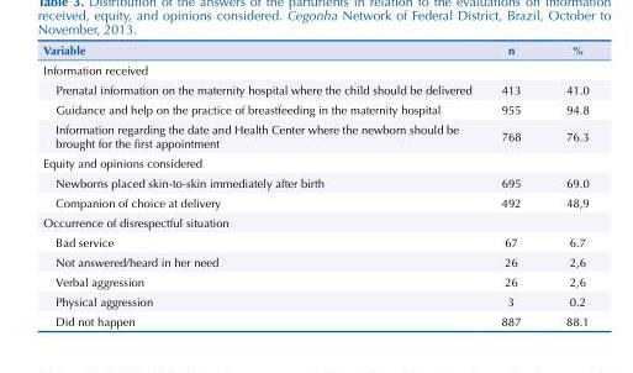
<table><thead><tr><td>Variable</td><td>n</td><td>%</td></tr></thead><tbody><tr><td colspan="3">Information received</td></tr><tr><td>Prenatal information on the maternity hospital where the child should be delivered</td><td>413</td><td>41.0</td></tr><tr><td>Guidance and help on the practice of breastfeeding in the maternity hospital</td><td>955</td><td>94.8</td></tr><tr><td>Information regarding the date and Health Center where the newborn should be brought for the first appointment</td><td>768</td><td>76.3</td></tr><tr><td colspan="3">Equity and opinions considered</td></tr><tr><td>Newborns placed skin-to-skin immediately after birth</td><td>695</td><td>69.0</td></tr><tr><td>Companion of choice at delivery</td><td>492</td><td>48,9</td></tr><tr><td colspan="3">Occurrence of disrespectful situation</td></tr><tr><td>Bad service</td><td>67</td><td>6.7</td></tr><tr><td>Not answered/heard in her need</td><td>26</td><td>2,6</td></tr><tr><td>Verbal aggression</td><td>26</td><td>2,6</td></tr><tr><td>Physical aggression</td><td>3</td><td>0.2</td></tr><tr><td>Did not happen</td><td>887</td><td>88.1</td></tr></tbody></table>